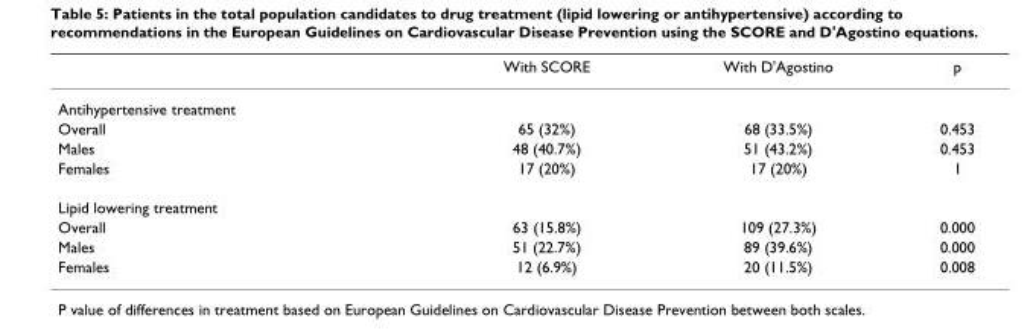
<table><thead><tr><td></td><td>With SCORE</td><td>With D&#x27;Agostino</td><td>p</td></tr></thead><tbody><tr><td colspan="4">Antihypertensive treatment</td></tr><tr><td>Overall</td><td>65 (32%)</td><td>68 (33.5%)</td><td>0.453</td></tr><tr><td>Males</td><td>48 (40.7%)</td><td>51 (43.2%)</td><td>0.453</td></tr><tr><td>Females</td><td>17 (20%)</td><td>17 (20%)</td><td>1</td></tr><tr><td colspan="4">Lipid lowering treatment</td></tr><tr><td>Overall</td><td>63 (15.8%)</td><td>109 (27.3%)</td><td>0.000</td></tr><tr><td>Males</td><td>51 (22.7%)</td><td>89 (39.6%)</td><td>0.000</td></tr><tr><td>Females</td><td>12 (6.9%)</td><td>20 (11.5%)</td><td>0.008</td></tr></tbody></table>